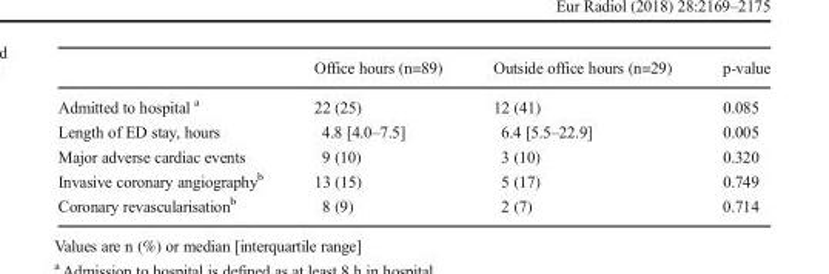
<table><thead><tr><td></td><td>Office hours (n=89)</td><td>Outside office hours (n=29)</td><td>p-value</td></tr></thead><tbody><tr><td>Admitted to hospital <sup>a</sup></td><td>22 (25)</td><td>12 (41)</td><td>0.085</td></tr><tr><td>Length of ED stay, hours</td><td>4.8 [4.0–7.5]</td><td>6.4 [5.5–22.9]</td><td>0.005</td></tr><tr><td>Major adverse cardiac events</td><td>9 (10)</td><td>3 (10)</td><td>0.320</td></tr><tr><td>Invasive coronary angiography<sup>b</sup></td><td>13 (15)</td><td>5 (17)</td><td>0.749</td></tr><tr><td>Coronary revascularisation<sup>b</sup></td><td>8 (9)</td><td>2 (7)</td><td>0.714</td></tr></tbody></table>